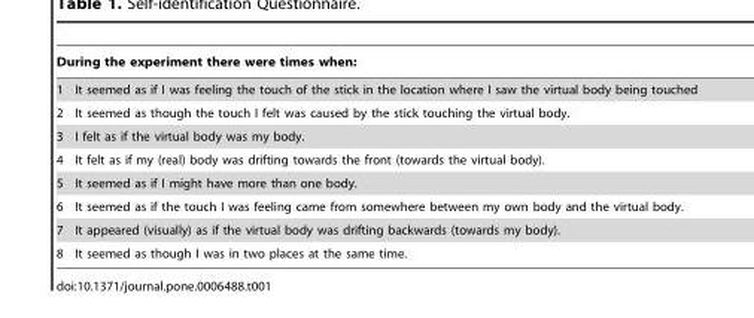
<table><thead><tr><td colspan="2">During the experiment there were times when:</td></tr><tr><td>1</td><td>It seemed as if I was feeling the touch of the stick in the location where I saw the virtual body being touched</td></tr></thead><tbody><tr><td>2</td><td>It seemed as though the touch I felt was caused by the stick touching the virtual body.</td></tr><tr><td>3</td><td>I felt as if the virtual body was my body.</td></tr><tr><td>4</td><td>It felt as if my (real) body was drifting towards the front (towards the virtual body).</td></tr><tr><td>5</td><td>It seemed as if I might have more than one body.</td></tr><tr><td>6</td><td>It seemed as if the touch I was feeling came from somewhere between my own body and the virtual body.</td></tr><tr><td>7</td><td>It appeared (visually) as if the virtual body was drifting backwards (towards my body).</td></tr><tr><td>8</td><td>It seemed as though I was in two places at the same time.</td></tr></tbody></table>